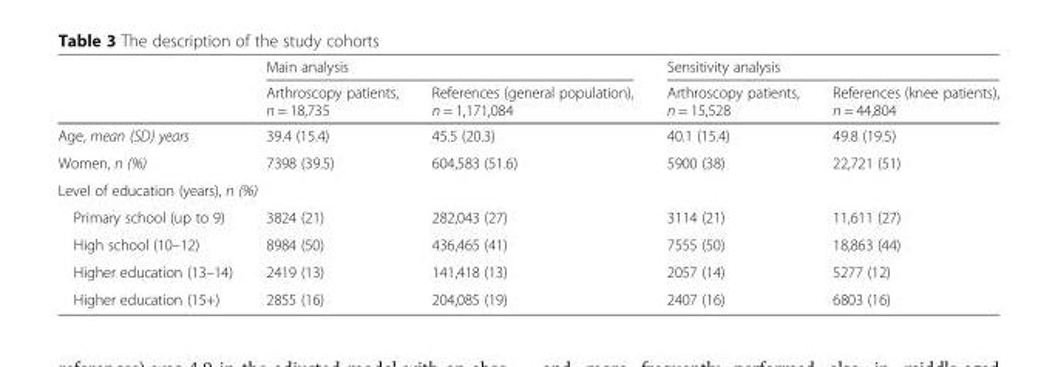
<table><thead><tr><td rowspan="2"></td><td colspan="2">Main analysis</td><td colspan="2">Sensitivity analysis</td></tr><tr><td>Arthroscopy patients, n = 18,735</td><td>References (general population), n = 1,171,084</td><td>Arthroscopy patients, n = 15,528</td><td>References (knee patients), n = 44,804</td></tr></thead><tbody><tr><td>Age, mean (SD) years</td><td>39.4 (15.4)</td><td>45.5 (20.3)</td><td>40.1 (15.4)</td><td>49.8 (19.5)</td></tr><tr><td>Women, n (%)</td><td>7398 (39.5)</td><td>604,583 (51.6)</td><td>5900 (38)</td><td>22,721 (51)</td></tr><tr><td colspan="5">Level of education (years), n (%)</td></tr><tr><td>Primary school (up to 9)</td><td>3824 (21)</td><td>282,043 (27)</td><td>3114 (21)</td><td>11,611 (27)</td></tr><tr><td>High school (10–12)</td><td>8984 (50)</td><td>436,465 (41)</td><td>7555 (50)</td><td>18,863 (44)</td></tr><tr><td>Higher education (13–14)</td><td>2419 (13)</td><td>141,418 (13)</td><td>2057 (14)</td><td>5277 (12)</td></tr><tr><td>Higher education (15+)</td><td>2855 (16)</td><td>204,085 (19)</td><td>2407 (16)</td><td>6803 (16)</td></tr></tbody></table>